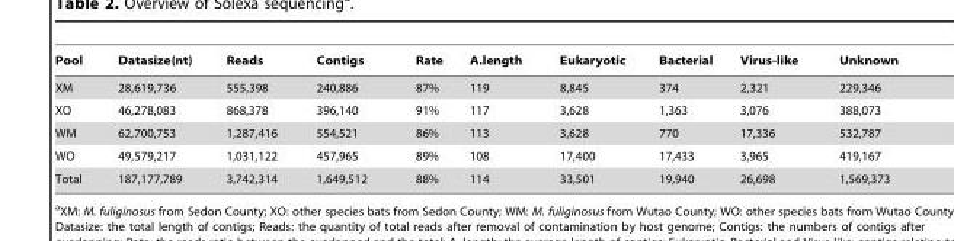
<table><thead><tr><td>Pool</td><td>Datasize(nt)</td><td>Reads</td><td>Contigs</td><td>Rate</td><td>A.length</td><td>Eukaryotic</td><td>Bacterial</td><td>Virus-like</td><td>Unknown</td></tr></thead><tbody><tr><td>XM</td><td>28,619,736</td><td>555,398</td><td>240,886</td><td>87%</td><td>119</td><td>8,845</td><td>374</td><td>2,321</td><td>229,346</td></tr><tr><td>XO</td><td>46,278,083</td><td>868,378</td><td>396,140</td><td>91%</td><td>117</td><td>3,628</td><td>1,363</td><td>3,076</td><td>388,073</td></tr><tr><td>WM</td><td>62,700,753</td><td>1,287,416</td><td>554,521</td><td>86%</td><td>113</td><td>3,628</td><td>770</td><td>17,336</td><td>532,787</td></tr><tr><td>WO</td><td>49,579,217</td><td>1,031,122</td><td>457,965</td><td>89%</td><td>108</td><td>17,400</td><td>17,433</td><td>3,965</td><td>419,167</td></tr><tr><td>Total</td><td>187,177,789</td><td>3,742,314</td><td>1,649,512</td><td>88%</td><td>114</td><td>33,501</td><td>19,940</td><td>26,698</td><td>1,569,373</td></tr></tbody></table>